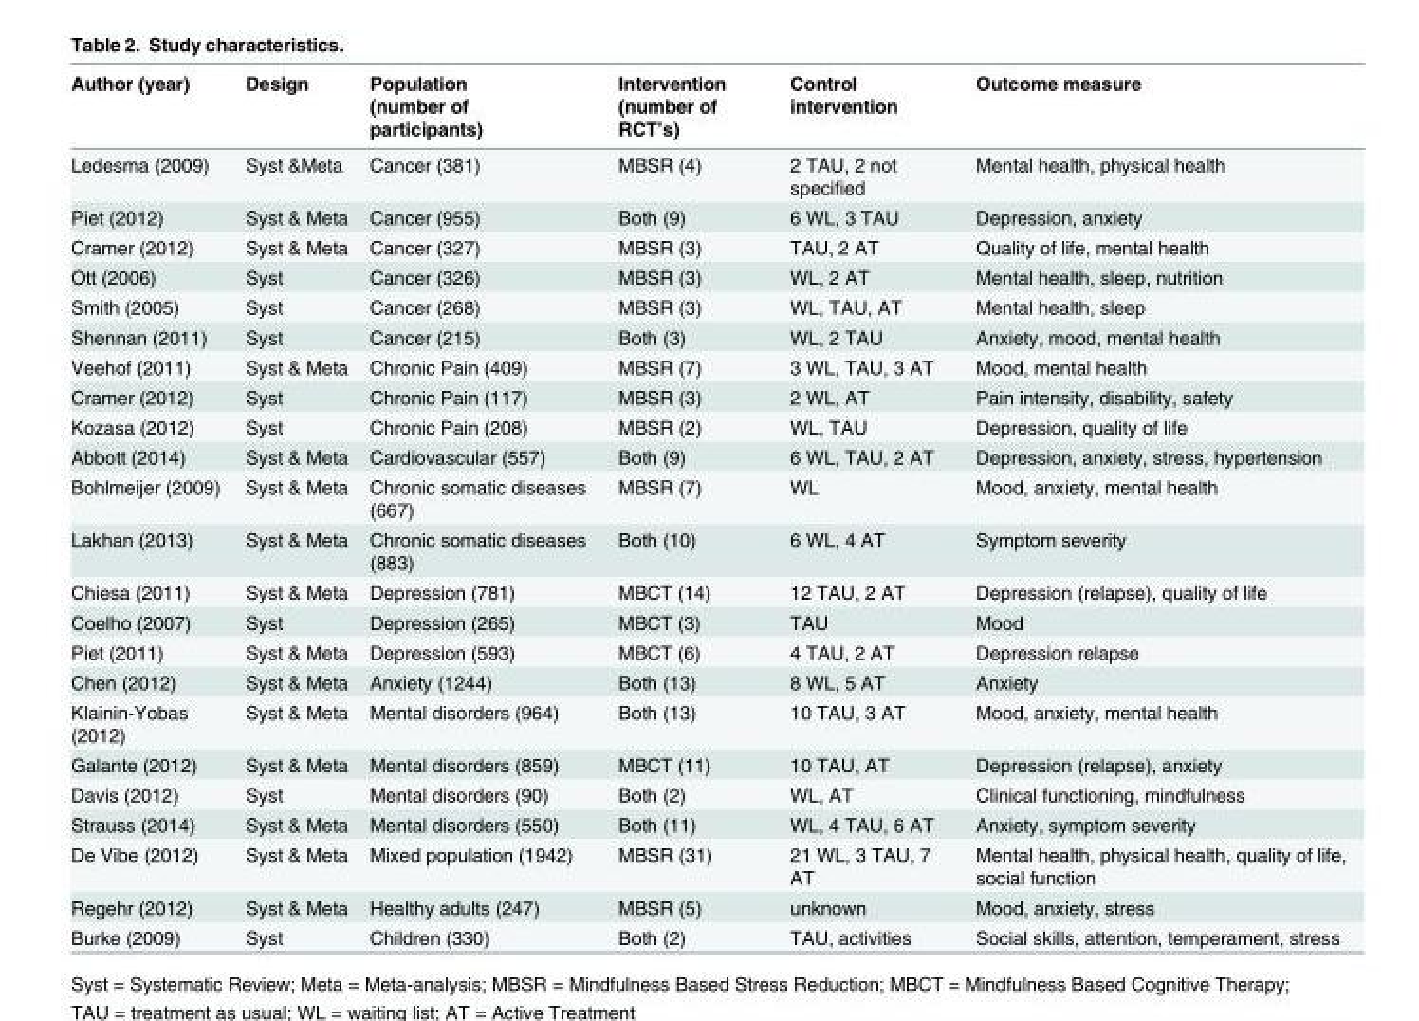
<table><thead><tr><td>Author (year)</td><td>Design</td><td>Population (number of participants)</td><td>Intervention (number of RCT’s)</td><td>Control intervention</td><td>Outcome measure</td></tr></thead><tbody><tr><td>Ledesma (2009)</td><td>Syst &amp;Meta</td><td>Cancer (381)</td><td>MBSR (4)</td><td>2 TAU, 2 not specified</td><td>Mental health, physical health</td></tr><tr><td>Piet (2012)</td><td>Syst &amp; Meta</td><td>Cancer (955)</td><td>Both (9)</td><td>6 WL, 3 TAU</td><td>Depression, anxiety</td></tr><tr><td>Cramer (2012)</td><td>Syst &amp; Meta</td><td>Cancer (327)</td><td>MBSR (3)</td><td>TAU, 2 AT</td><td>Quality of life, mental health</td></tr><tr><td>Ott (2006)</td><td>Syst</td><td>Cancer (326)</td><td>MBSR (3)</td><td>WL, 2 AT</td><td>Mental health, sleep, nutrition</td></tr><tr><td>Smith (2005)</td><td>Syst</td><td>Cancer (268)</td><td>MBSR (3)</td><td>WL, TAU, AT</td><td>Mental health, sleep</td></tr><tr><td>Shennan (2011)</td><td>Syst</td><td>Cancer (215)</td><td>Both (3)</td><td>WL, 2 TAU</td><td>Anxiety, mood, mental health</td></tr><tr><td>Veehof (2011)</td><td>Syst &amp; Meta</td><td>Chronic Pain (409)</td><td>MBSR (7)</td><td>3 WL, TAU, 3 AT</td><td>Mood, mental health</td></tr><tr><td>Cramer (2012)</td><td>Syst</td><td>Chronic Pain (117)</td><td>MBSR (3)</td><td>2 WL, AT</td><td>Pain intensity, disability, safety</td></tr><tr><td>Kozasa (2012)</td><td>Syst</td><td>Chronic Pain (208)</td><td>MBSR (2)</td><td>WL, TAU</td><td>Depression, quality of life</td></tr><tr><td>Abbott (2014)</td><td>Syst &amp; Meta</td><td>Cardiovascular (557)</td><td>Both (9)</td><td>6 WL, TAU, 2 AT</td><td>Depression, anxiety, stress, hypertension</td></tr><tr><td>Bohlmeijer (2009)</td><td>Syst &amp; Meta</td><td>Chronic somatic diseases (667)</td><td>MBSR (7)</td><td>WL</td><td>Mood, anxiety, mental health</td></tr><tr><td>Lakhan (2013)</td><td>Syst &amp; Meta</td><td>Chronic somatic diseases (883)</td><td>Both (10)</td><td>6 WL, 4 AT</td><td>Symptom severity</td></tr><tr><td>Chiesa (2011)</td><td>Syst &amp; Meta</td><td>Depression (781)</td><td>MBCT (14)</td><td>12 TAU, 2 AT</td><td>Depression (relapse), quality of life</td></tr><tr><td>Coelho (2007)</td><td>Syst</td><td>Depression (265)</td><td>MBCT (3)</td><td>TAU</td><td>Mood</td></tr><tr><td>Piet (2011)</td><td>Syst &amp; Meta</td><td>Depression (593)</td><td>MBCT (6)</td><td>4 TAU, 2 AT</td><td>Depression relapse</td></tr><tr><td>Chen (2012)</td><td>Syst &amp; Meta</td><td>Anxiety (1244)</td><td>Both (13)</td><td>8 WL, 5 AT</td><td>Anxiety</td></tr><tr><td>Klainin-Yobas (2012)</td><td>Syst &amp; Meta</td><td>Mental disorders (964)</td><td>Both (13)</td><td>10 TAU, 3 AT</td><td>Mood, anxiety, mental health</td></tr><tr><td>Galante (2012)</td><td>Syst &amp; Meta</td><td>Mental disorders (859)</td><td>MBCT (11)</td><td>10 TAU, AT</td><td>Depression (relapse), anxiety</td></tr><tr><td>Davis (2012)</td><td>Syst</td><td>Mental disorders (90)</td><td>Both (2)</td><td>WL, AT</td><td>Clinical functioning, mindfulness</td></tr><tr><td>Strauss (2014)</td><td>Syst &amp; Meta</td><td>Mental disorders (550)</td><td>Both (11)</td><td>WL, 4 TAU, 6 AT</td><td>Anxiety, symptom severity</td></tr><tr><td>De Vibe (2012)</td><td>Syst &amp; Meta</td><td>Mixed population (1942)</td><td>MBSR (31)</td><td>21 WL, 3 TAU, 7 AT</td><td>Mental health, physical health, quality of life, social function</td></tr><tr><td>Regehr (2012)</td><td>Syst &amp; Meta</td><td>Healthy adults (247)</td><td>MBSR (5)</td><td>unknown</td><td>Mood, anxiety, stress</td></tr><tr><td>Burke (2009)</td><td>Syst</td><td>Children (330)</td><td>Both (2)</td><td>TAU, activities</td><td>Social skills, attention, temperament, stress</td></tr></tbody></table>